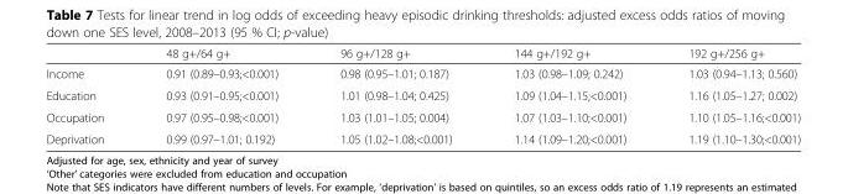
<table><thead><tr><td></td><td>48 g+/64 g+</td><td>96 g+/128 g+</td><td>144 g+/192 g+</td><td>192 g+/256 g+</td></tr></thead><tbody><tr><td>Income</td><td>0.91 (0.89–0.93;&lt;0.001)</td><td>0.98 (0.95–1.01; 0.187)</td><td>1.03 (0.98–1.09; 0.242)</td><td>1.03 (0.94–1.13; 0.560)</td></tr><tr><td>Education</td><td>0.93 (0.91–0.95;&lt;0.001)</td><td>1.01 (0.98–1.04; 0.425)</td><td>1.09 (1.04–1.15;&lt;0.001)</td><td>1.16 (1.05–1.27; 0.002)</td></tr><tr><td>Occupation</td><td>0.97 (0.95–0.98;&lt;0.001)</td><td>1.03 (1.01–1.05; 0.004)</td><td>1.07 (1.03–1.10;&lt;0.001)</td><td>1.10 (1.05–1.16;&lt;0.001)</td></tr><tr><td>Deprivation</td><td>0.99 (0.97–1.01; 0.192)</td><td>1.05 (1.02–1.08;&lt;0.001)</td><td>1.14 (1.09–1.20;&lt;0.001)</td><td>1.19 (1.10–1.30;&lt;0.001)</td></tr></tbody></table>